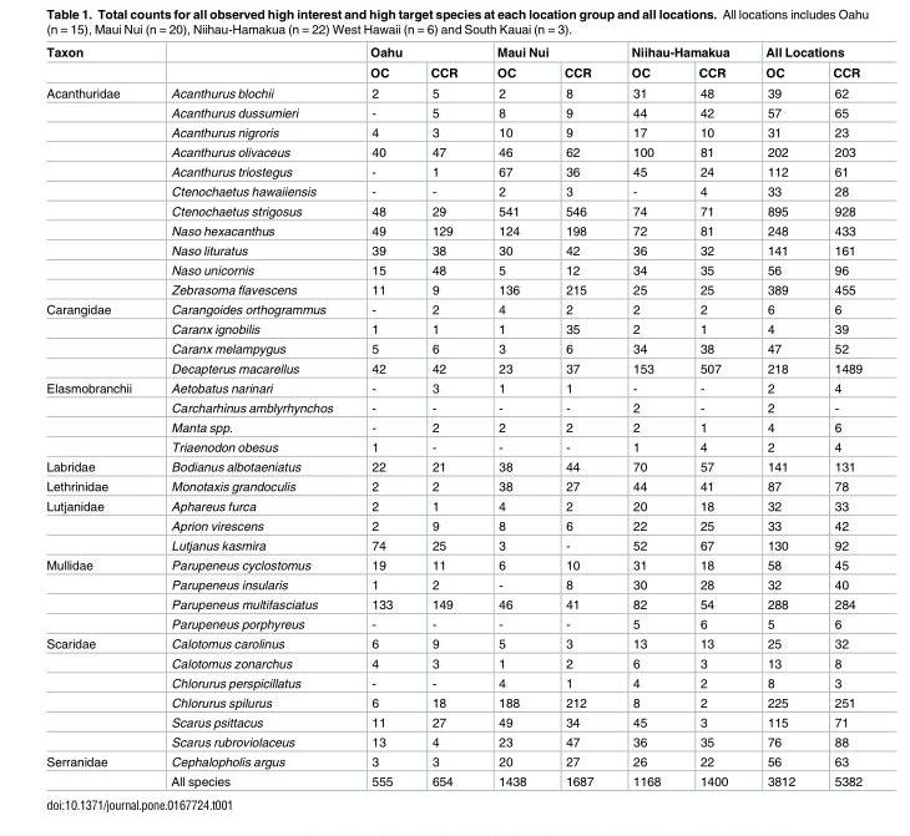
<table><thead><tr><td rowspan="2">Taxon</td><td rowspan="2"></td><td colspan="2">Oahu</td><td colspan="2">Maui Nui</td><td colspan="2">Niihau-Hamakua</td><td colspan="2">All Locations</td></tr><tr><td>OC</td><td>CCR</td><td>OC</td><td>CCR</td><td>OC</td><td>CCR</td><td>OC</td><td>CCR</td></tr></thead><tbody><tr><td rowspan="11">Acanthuridae</td><td>Acanthurus blochii</td><td>2</td><td>5</td><td>2</td><td>8</td><td>31</td><td>48</td><td>39</td><td>62</td></tr><tr><td>Acanthurus dussumieri</td><td>-</td><td>5</td><td>8</td><td>9</td><td>44</td><td>42</td><td>57</td><td>65</td></tr><tr><td>Acanthurus nigroris</td><td>4</td><td>3</td><td>10</td><td>9</td><td>17</td><td>10</td><td>31</td><td>23</td></tr><tr><td>Acanthurus olivaceus</td><td>40</td><td>47</td><td>46</td><td>62</td><td>100</td><td>81</td><td>202</td><td>203</td></tr><tr><td>Acanthurus triostegus</td><td>-</td><td>1</td><td>67</td><td>36</td><td>45</td><td>24</td><td>112</td><td>61</td></tr><tr><td>Ctenochaetus hawaiiensis</td><td>-</td><td>-</td><td>2</td><td>3</td><td>-</td><td>4</td><td>33</td><td>28</td></tr><tr><td>Ctenochaetus strigosus</td><td>48</td><td>29</td><td>541</td><td>546</td><td>74</td><td>71</td><td>895</td><td>928</td></tr><tr><td>Naso hexacanthus</td><td>49</td><td>129</td><td>124</td><td>198</td><td>72</td><td>81</td><td>248</td><td>433</td></tr><tr><td>Naso lituratus</td><td>39</td><td>38</td><td>30</td><td>42</td><td>36</td><td>32</td><td>141</td><td>161</td></tr><tr><td>Naso unicornis</td><td>15</td><td>48</td><td>5</td><td>12</td><td>34</td><td>35</td><td>56</td><td>96</td></tr><tr><td>Zebrasoma flavescens</td><td>11</td><td>9</td><td>136</td><td>215</td><td>25</td><td>25</td><td>389</td><td>455</td></tr><tr><td rowspan="4">Carangidae</td><td>Carangoides orthogrammus</td><td>-</td><td>2</td><td>4</td><td>2</td><td>2</td><td>2</td><td>6</td><td>6</td></tr><tr><td>Caranx ignobilis</td><td>1</td><td>1</td><td>1</td><td>35</td><td>2</td><td>1</td><td>4</td><td>39</td></tr><tr><td>Caranx melampygus</td><td>5</td><td>6</td><td>3</td><td>6</td><td>34</td><td>38</td><td>47</td><td>52</td></tr><tr><td>Decapterus macarellus</td><td>42</td><td>42</td><td>23</td><td>37</td><td>153</td><td>507</td><td>218</td><td>1489</td></tr><tr><td rowspan="4">Elasmobranchii</td><td>Aetobatus narinari</td><td>-</td><td>3</td><td>1</td><td>1</td><td>-</td><td>-</td><td>2</td><td>4</td></tr><tr><td>Carcharhinus amblyrhynchos</td><td>-</td><td>-</td><td>-</td><td>-</td><td>2</td><td>-</td><td>2</td><td>-</td></tr><tr><td>Manta spp.</td><td>-</td><td>2</td><td>2</td><td>2</td><td>2</td><td>1</td><td>4</td><td>6</td></tr><tr><td>Triaenodon obesus</td><td>1</td><td>-</td><td>-</td><td>-</td><td>1</td><td>4</td><td>2</td><td>4</td></tr><tr><td>Labridae</td><td>Bodianus albotaeniatus</td><td>22</td><td>21</td><td>38</td><td>44</td><td>70</td><td>57</td><td>141</td><td>131</td></tr><tr><td>Lethrinidae</td><td>Monotaxis grandoculis</td><td>2</td><td>2</td><td>38</td><td>27</td><td>44</td><td>41</td><td>87</td><td>78</td></tr><tr><td rowspan="3">Lutjanidae</td><td>Aphareus furca</td><td>2</td><td>1</td><td>4</td><td>2</td><td>20</td><td>18</td><td>32</td><td>33</td></tr><tr><td>Aprion virescens</td><td>2</td><td>9</td><td>8</td><td>6</td><td>22</td><td>25</td><td>33</td><td>42</td></tr><tr><td>Lutjanus kasmira</td><td>74</td><td>25</td><td>3</td><td>-</td><td>52</td><td>67</td><td>130</td><td>92</td></tr><tr><td rowspan="4">Mullidae</td><td>Parupeneus cyclostomus</td><td>19</td><td>11</td><td>6</td><td>10</td><td>31</td><td>18</td><td>58</td><td>45</td></tr><tr><td>Parupeneus insularis</td><td>1</td><td>2</td><td>-</td><td>8</td><td>30</td><td>28</td><td>32</td><td>40</td></tr><tr><td>Parupeneus multifasciatus</td><td>133</td><td>149</td><td>46</td><td>41</td><td>82</td><td>54</td><td>288</td><td>284</td></tr><tr><td>Parupeneus porphyreus</td><td>-</td><td>-</td><td>-</td><td>-</td><td>5</td><td>6</td><td>5</td><td>6</td></tr><tr><td rowspan="6">Scaridae</td><td>Calotomus carolinus</td><td>6</td><td>9</td><td>5</td><td>3</td><td>13</td><td>13</td><td>25</td><td>32</td></tr><tr><td>Calotomus zonarchus</td><td>4</td><td>3</td><td>1</td><td>2</td><td>6</td><td>3</td><td>13</td><td>8</td></tr><tr><td>Chlorurus perspicillatus</td><td>-</td><td>-</td><td>4</td><td>1</td><td>4</td><td>2</td><td>8</td><td>3</td></tr><tr><td>Chlorurus spilurus</td><td>6</td><td>18</td><td>188</td><td>212</td><td>8</td><td>2</td><td>225</td><td>251</td></tr><tr><td>Scarus psittacus</td><td>11</td><td>27</td><td>49</td><td>34</td><td>45</td><td>3</td><td>115</td><td>71</td></tr><tr><td>Scarus rubroviolaceus</td><td>13</td><td>4</td><td>23</td><td>47</td><td>36</td><td>35</td><td>76</td><td>88</td></tr><tr><td rowspan="2">Serranidae</td><td>Cephalopholis argus</td><td>3</td><td>3</td><td>20</td><td>27</td><td>26</td><td>22</td><td>56</td><td>63</td></tr><tr><td>All species</td><td>555</td><td>654</td><td>1438</td><td>1687</td><td>1168</td><td>1400</td><td>3812</td><td>5382</td></tr></tbody></table>